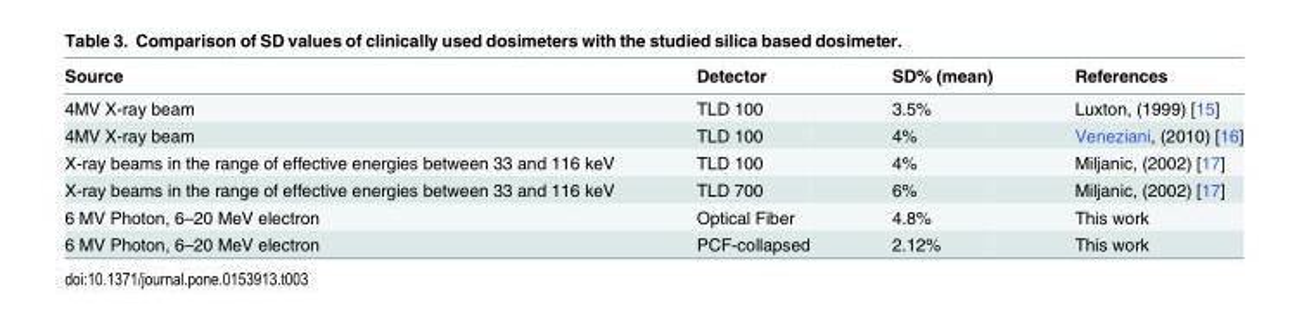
<table><thead><tr><td>Source</td><td>Detector</td><td>SD% (mean)</td><td>References</td></tr></thead><tbody><tr><td>4MV X-ray beam</td><td>TLD 100</td><td>3.5%</td><td>Luxton, (1999) [15]</td></tr><tr><td>4MV X-ray beam</td><td>TLD 100</td><td>4%</td><td>Veneziani, (2010) [16]</td></tr><tr><td>X-ray beams in the range of effective energies between 33 and 116 keV</td><td>TLD 100</td><td>4%</td><td>Miljanic, (2002) [17]</td></tr><tr><td>X-ray beams in the range of effective energies between 33 and 116 keV</td><td>TLD 700</td><td>6%</td><td>Miljanic, (2002) [17]</td></tr><tr><td>6 MV Photon, 6–20 MeV electron</td><td>Optical Fiber</td><td>4.8%</td><td>This work</td></tr><tr><td>6 MV Photon, 6–20 MeV electron</td><td>PCF-collapsed</td><td>2.12%</td><td>This work</td></tr></tbody></table>